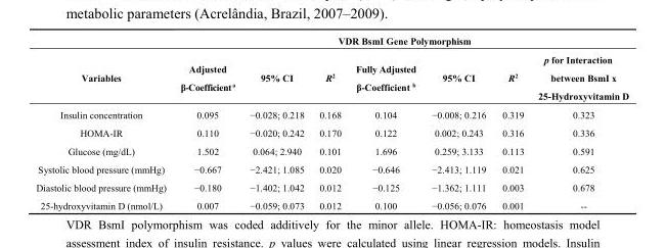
<table><thead><tr><td rowspan="2">Variables</td><td colspan="7">VDR BsmI Gene Polymorphism</td></tr><tr><td>Adjusted β-Coefficient <sup>a</sup></td><td>95% CI</td><td>R<sup>2</sup></td><td>Fully Adjusted β-Coefficient <sup>b</sup></td><td>95% CI</td><td>R<sup>2</sup></td><td>p for Interaction between BsmI x 25-Hydroxyvitamin D</td></tr></thead><tbody><tr><td>Insulin concentration</td><td>0.095</td><td>−0.028; 0.218</td><td>0.168</td><td>0.104</td><td>−0.008; 0.216</td><td>0.319</td><td>0.323</td></tr><tr><td>HOMA-IR</td><td>0.110</td><td>−0.020; 0.242</td><td>0.170</td><td>0.122</td><td>0.002; 0.243</td><td>0.316</td><td>0.336</td></tr><tr><td>Glucose (mg/dL)</td><td>1.502</td><td>0.064; 2.940</td><td>0.101</td><td>1.696</td><td>0.259; 3.133</td><td>0.113</td><td>0.591</td></tr><tr><td>Systolic blood pressure (mmHg)</td><td>−0.667</td><td>−2.421; 1.085</td><td>0.020</td><td>−0.646</td><td>−2.413; 1.119</td><td>0.021</td><td>0.625</td></tr><tr><td>Diastolic blood pressure (mmHg)</td><td>−0.180</td><td>−1.402; 1.042</td><td>0.012</td><td>−0.125</td><td>−1.362; 1.111</td><td>0.003</td><td>0.678</td></tr><tr><td>25-hydroxyvitamin D (nmol/L)</td><td>0.007</td><td>−0.059; 0.073</td><td>0.012</td><td>0.100</td><td>−0.056; 0.076</td><td>0.001</td><td>--</td></tr></tbody></table>